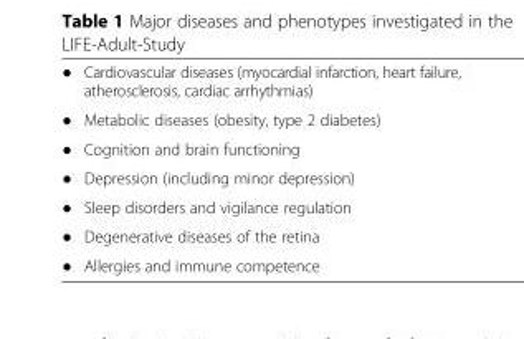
<table><tbody><tr><td>●</td><td>Cardiovascular diseases (myocardial infarction, heart failure, atherosclerosis, cardiac arrhythmias)</td></tr><tr><td>●</td><td>Metabolic diseases (obesity, type 2 diabetes)</td></tr><tr><td>●</td><td>Cognition and brain functioning</td></tr><tr><td>●</td><td>Depression (including minor depression)</td></tr><tr><td>●</td><td>Sleep disorders and vigilance regulation</td></tr><tr><td>●</td><td>Degenerative diseases of the retina</td></tr><tr><td>●</td><td>Allergies and immune competence</td></tr></tbody></table>